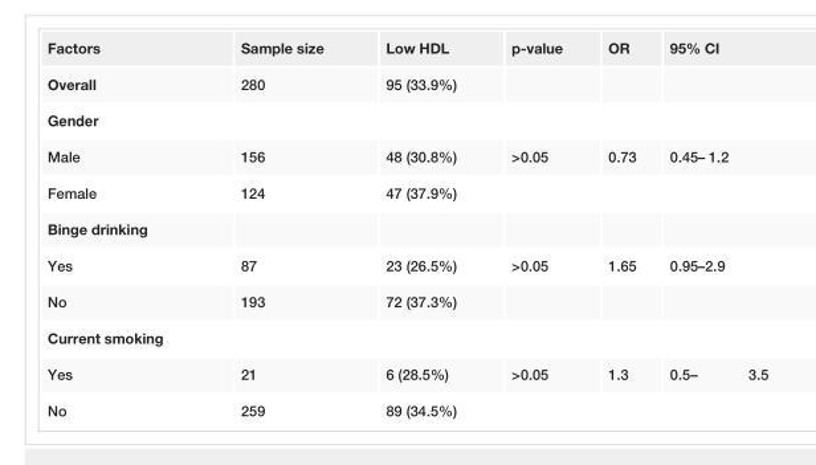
<table><tbody><tr><td>Factors</td><td>Sample size</td><td>Low HDL</td><td>p-value</td><td>OR</td><td>95% CI</td></tr><tr><td>Overall</td><td>280</td><td>95 (33.9%)</td><td></td><td></td><td></td></tr><tr><td colspan="6">Gender</td></tr><tr><td>Male</td><td>156</td><td>48 (30.8%)</td><td>&gt;0.05</td><td>0.73</td><td>0.45– 1.2</td></tr><tr><td>Female</td><td>124</td><td>47 (37.9%)</td><td></td><td></td><td></td></tr><tr><td colspan="6">Binge drinking</td></tr><tr><td>Yes</td><td>87</td><td>23 (26.5%)</td><td>&gt;0.05</td><td>1.65</td><td>0.95–2.9</td></tr><tr><td>No</td><td>193</td><td>72 (37.3%)</td><td></td><td></td><td></td></tr><tr><td colspan="6">Current smoking</td></tr><tr><td>Yes</td><td>21</td><td>6 (28.5%)</td><td>&gt;0.05</td><td>1.3</td><td>0.5–3.5</td></tr><tr><td>No</td><td>259</td><td>89 (34.5%)</td><td></td><td></td><td></td></tr></tbody></table>